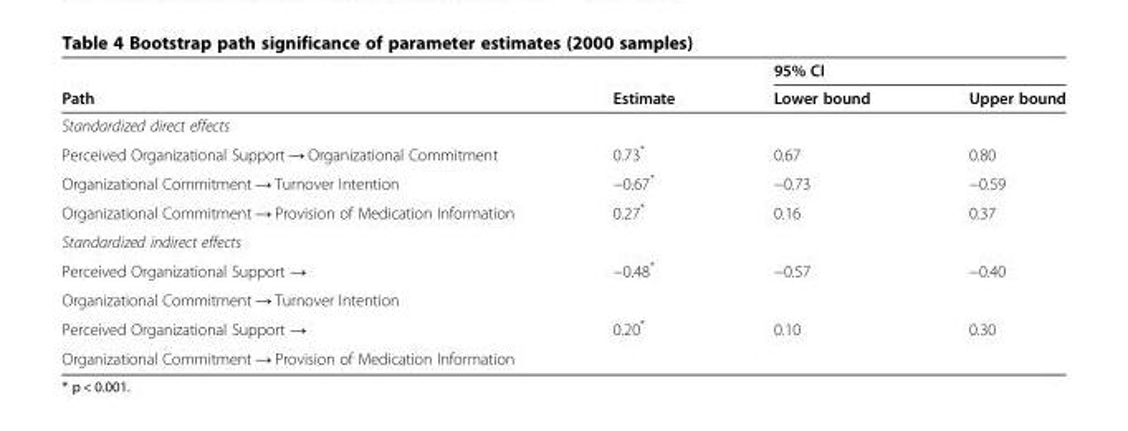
<table><thead><tr><td rowspan="2">Path</td><td rowspan="2">Estimate</td><td colspan="2">95% CI</td></tr><tr><td>Lower bound</td><td>Upper bound</td></tr></thead><tbody><tr><td colspan="4">Standardized direct effects</td></tr><tr><td>Perceived Organizational Support → Organizational Commitment</td><td>0.73*</td><td>0.67</td><td>0.80</td></tr><tr><td>Organizational Commitment → Turnover Intention</td><td>−0.67*</td><td>−0.73</td><td>−0.59</td></tr><tr><td>Organizational Commitment → Provision of Medication Information</td><td>0.27*</td><td>0.16</td><td>0.37</td></tr><tr><td colspan="4">Standardized indirect effects</td></tr><tr><td>Perceived Organizational Support →</td><td rowspan="2">−0.48*</td><td rowspan="2">−0.57</td><td rowspan="2">−0.40</td></tr><tr><td>Organizational Commitment → Turnover Intention</td></tr><tr><td>Perceived Organizational Support →</td><td rowspan="2">0.20*</td><td rowspan="2">0.10</td><td rowspan="2">0.30</td></tr><tr><td>Organizational Commitment → Provision of Medication Information</td></tr></tbody></table>